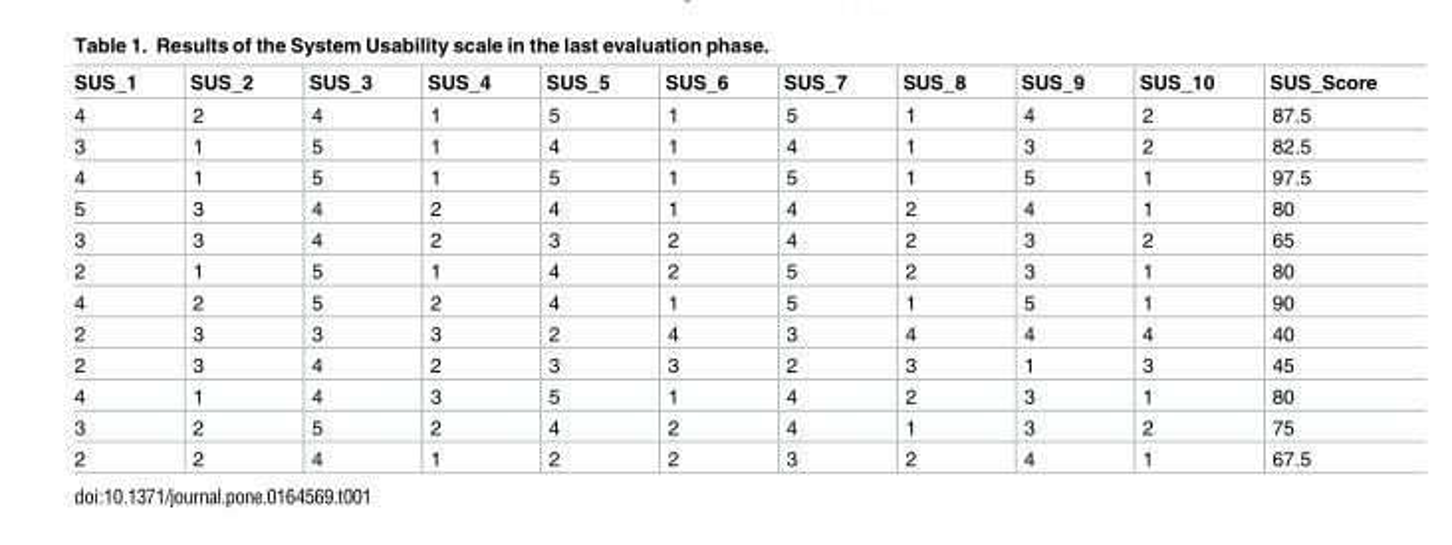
<table><thead><tr><td>SUS_1</td><td>SUS_2</td><td>SUS_3</td><td>SUS_4</td><td>SUS_5</td><td>SUS_6</td><td>SUS_7</td><td>SUS_8</td><td>SUS_9</td><td>SUS_10</td><td>SUS_Score</td></tr></thead><tbody><tr><td>4</td><td>2</td><td>4</td><td>1</td><td>5</td><td>1</td><td>5</td><td>1</td><td>4</td><td>2</td><td>87.5</td></tr><tr><td>3</td><td>1</td><td>5</td><td>1</td><td>4</td><td>1</td><td>4</td><td>1</td><td>3</td><td>2</td><td>82.5</td></tr><tr><td>4</td><td>1</td><td>5</td><td>1</td><td>5</td><td>1</td><td>5</td><td>1</td><td>5</td><td>1</td><td>97.5</td></tr><tr><td>5</td><td>3</td><td>4</td><td>2</td><td>4</td><td>1</td><td>4</td><td>2</td><td>4</td><td>1</td><td>80</td></tr><tr><td>3</td><td>3</td><td>4</td><td>2</td><td>3</td><td>2</td><td>4</td><td>2</td><td>3</td><td>2</td><td>65</td></tr><tr><td>2</td><td>1</td><td>5</td><td>1</td><td>4</td><td>2</td><td>5</td><td>2</td><td>3</td><td>1</td><td>80</td></tr><tr><td>4</td><td>2</td><td>5</td><td>2</td><td>4</td><td>1</td><td>5</td><td>1</td><td>5</td><td>1</td><td>90</td></tr><tr><td>2</td><td>3</td><td>3</td><td>3</td><td>2</td><td>4</td><td>3</td><td>4</td><td>4</td><td>4</td><td>40</td></tr><tr><td>2</td><td>3</td><td>4</td><td>2</td><td>3</td><td>3</td><td>2</td><td>3</td><td>1</td><td>3</td><td>45</td></tr><tr><td>4</td><td>1</td><td>4</td><td>3</td><td>5</td><td>1</td><td>4</td><td>2</td><td>3</td><td>1</td><td>80</td></tr><tr><td>3</td><td>2</td><td>5</td><td>2</td><td>4</td><td>2</td><td>4</td><td>1</td><td>3</td><td>2</td><td>75</td></tr><tr><td>2</td><td>2</td><td>4</td><td>1</td><td>2</td><td>2</td><td>3</td><td>2</td><td>4</td><td>1</td><td>67.5</td></tr></tbody></table>